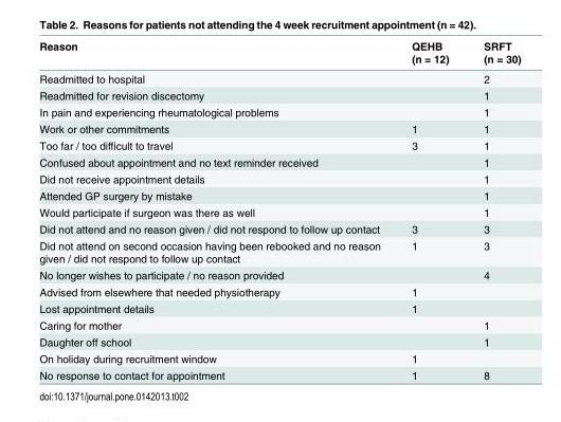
<table><thead><tr><td>Reason</td><td>QEHB (n = 12)</td><td>SRFT (n = 30)</td></tr></thead><tbody><tr><td>Readmitted to hospital</td><td></td><td>2</td></tr><tr><td>Readmitted for revision discectomy</td><td></td><td>1</td></tr><tr><td>In pain and experiencing rheumatological problems</td><td></td><td>1</td></tr><tr><td>Work or other commitments</td><td>1</td><td>1</td></tr><tr><td>Too far / too difficult to travel</td><td>3</td><td>1</td></tr><tr><td>Confused about appointment and no text reminder received</td><td></td><td>1</td></tr><tr><td>Did not receive appointment details</td><td></td><td>1</td></tr><tr><td>Attended GP surgery by mistake</td><td></td><td>1</td></tr><tr><td>Would participate if surgeon was there as well</td><td></td><td>1</td></tr><tr><td>Did not attend and no reason given / did not respond to follow up contact</td><td>3</td><td>3</td></tr><tr><td>Did not attend on second occasion having been rebooked and no reason given / did not respond to follow up contact</td><td>1</td><td>3</td></tr><tr><td>No longer wishes to participate / no reason provided</td><td></td><td>4</td></tr><tr><td>Advised from elsewhere that needed physiotherapy</td><td>1</td><td></td></tr><tr><td>Lost appointment details</td><td>1</td><td></td></tr><tr><td>Caring for mother</td><td></td><td>1</td></tr><tr><td>Daughter off school</td><td></td><td>1</td></tr><tr><td>On holiday during recruitment window</td><td>1</td><td></td></tr><tr><td>No response to contact for appointment</td><td>1</td><td>8</td></tr></tbody></table>